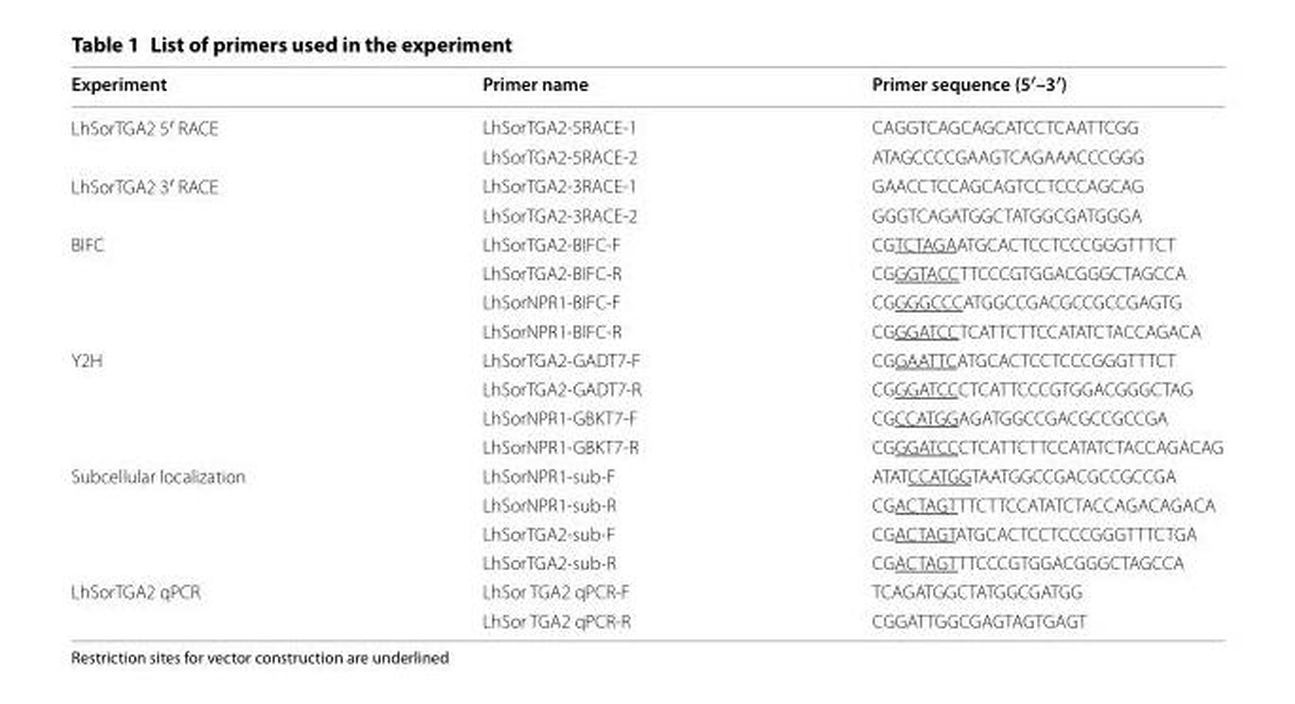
<table><thead><tr><td>Experiment</td><td>Primer name</td><td>Primer sequence (5′–3′)</td></tr></thead><tbody><tr><td rowspan="2">LhSorTGA2 5′ RACE</td><td>LhSorTGA2-5RACE-1</td><td>CAGGTCAGCAGCATCCTCAATTCGG</td></tr><tr><td>LhSorTGA2-5RACE-2</td><td>ATAGCCCCGAAGTCAGAAACCCGGG</td></tr><tr><td rowspan="2">LhSorTGA2 3′ RACE</td><td>LhSorTGA2-3RACE-1</td><td>GAACCTCCAGCAGTCCTCCCAGCAG</td></tr><tr><td>LhSorTGA2-3RACE-2</td><td>GGGTCAGATGGCTATGGCGATGGGA</td></tr><tr><td rowspan="4">BIFC</td><td>LhSorTGA2-BIFC-F</td><td>CGTCTAGAATGCACTCCTCCCGGGTTTCT</td></tr><tr><td>LhSorTGA2-BIFC-R</td><td>CGGGTACCTTCCCGTGGACGGGCTAGCCA</td></tr><tr><td>LhSorNPR1-BIFC-F</td><td>CGGGGCCCATGGCCGACGCCGCCGAGTG</td></tr><tr><td>LhSorNPR1-BIFC-R</td><td>CGGGATCCTCATTCTTCCATATCTACCAGACA</td></tr><tr><td rowspan="4">Y2H</td><td>LhSorTGA2-GADT7-F</td><td>CGGAATTCATGCACTCCTCCCGGGTTTCT</td></tr><tr><td>LhSorTGA2-GADT7-R</td><td>CGGGATCCCTCATTCCCGTGGACGGGCTAG</td></tr><tr><td>LhSorNPR1-GBKT7-F</td><td>CGCCATGGAGATGGCCGACGCCGCCGA</td></tr><tr><td>LhSorNPR1-GBKT7-R</td><td>CGGGATCCCTCATTCTTCCATATCTACCAGACAG</td></tr><tr><td rowspan="4">Subcellular localization</td><td>LhSorNPR1-sub-F</td><td>ATATCCATGGTAATGGCCGACGCCGCCGA</td></tr><tr><td>LhSorNPR1-sub-R</td><td>CGACTAGTTTCTTCCATATCTACCAGACAGACA</td></tr><tr><td>LhSorTGA2-sub-F</td><td>CGACTAGTATGCACTCCTCCCGGGTTTCTGA</td></tr><tr><td>LhSorTGA2-sub-R</td><td>CGACTAGTTTCCCGTGGACGGGCTAGCCA</td></tr><tr><td rowspan="2">LhSorTGA2 qPCR</td><td>LhSor TGA2 qPCR-F</td><td>TCAGATGGCTATGGCGATGG</td></tr><tr><td>LhSor TGA2 qPCR-R</td><td>CGGATTGGCGAGTAGTGAGT</td></tr></tbody></table>